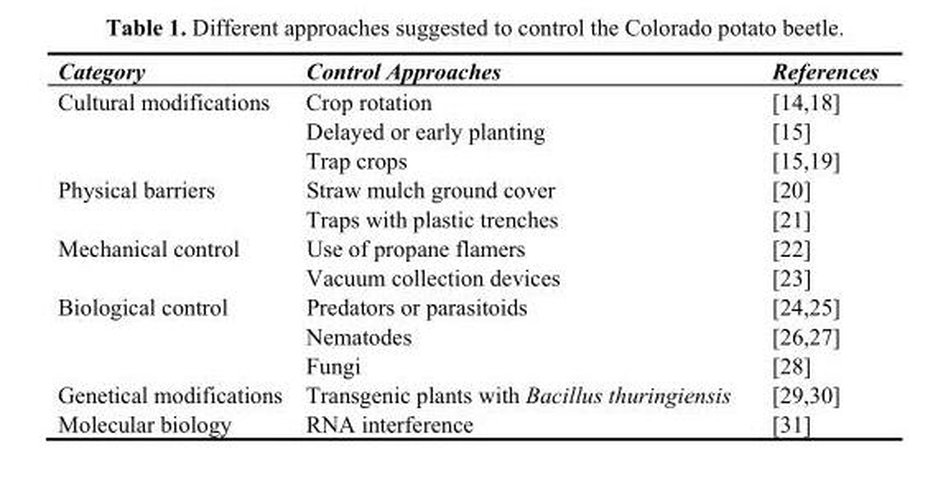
<table><thead><tr><td>Category</td><td>Control Approaches</td><td>References</td></tr></thead><tbody><tr><td rowspan="3">Cultural modifications</td><td>Crop rotation</td><td>[14,18]</td></tr><tr><td>Delayed or early planting</td><td>[15]</td></tr><tr><td>Trap crops</td><td>[15,19]</td></tr><tr><td rowspan="2">Physical barriers</td><td>Straw mulch ground cover</td><td>[20]</td></tr><tr><td>Traps with plastic trenches</td><td>[21]</td></tr><tr><td rowspan="2">Mechanical control</td><td>Use of propane flamers</td><td>[22]</td></tr><tr><td>Vacuum collection devices</td><td>[23]</td></tr><tr><td rowspan="3">Biological control</td><td>Predators or parasitoids</td><td>[24,25]</td></tr><tr><td>Nematodes</td><td>[26,27]</td></tr><tr><td>Fungi</td><td>[28]</td></tr><tr><td>Genetical modifications</td><td>Transgenic plants with Bacillus thuringiensis</td><td>[29,30]</td></tr><tr><td>Molecular biology</td><td>RNA interference</td><td>[31]</td></tr></tbody></table>